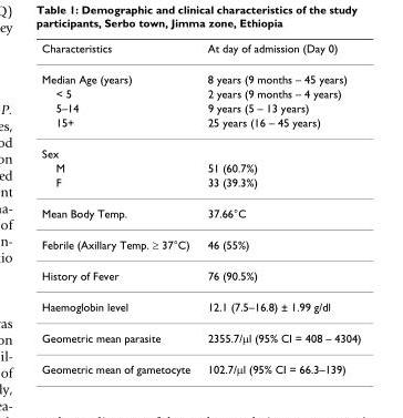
<table><thead><tr><td>Characteristics</td><td>At day of admission (Day 0)</td></tr></thead><tbody><tr><td>Median Age (years)</td><td>8 years (9 months – 45 years)</td></tr><tr><td>&lt; 5</td><td>2 years (9 months – 4 years)</td></tr><tr><td>5–14</td><td>9 years (5 – 13 years)</td></tr><tr><td>15+</td><td>25 years (16 – 45 years)</td></tr><tr><td colspan="2">Sex</td></tr><tr><td>M</td><td>51 (60.7%)</td></tr><tr><td>F</td><td>33 (39.3%)</td></tr><tr><td>Mean Body Temp.</td><td>37.66°C</td></tr><tr><td>Febrile (Axillary Temp. ≥ 37°C)</td><td>46 (55%)</td></tr><tr><td>History of Fever</td><td>76 (90.5%)</td></tr><tr><td>Haemoglobin level</td><td>12.1 (7.5–16.8) ± 1.99 g/dl</td></tr><tr><td>Geometric mean parasite</td><td>2355.7/μl (95% CI = 408 – 4304)</td></tr><tr><td>Geometric mean of gametocyte</td><td>102.7/μl (95% CI = 66.3–139)</td></tr></tbody></table>